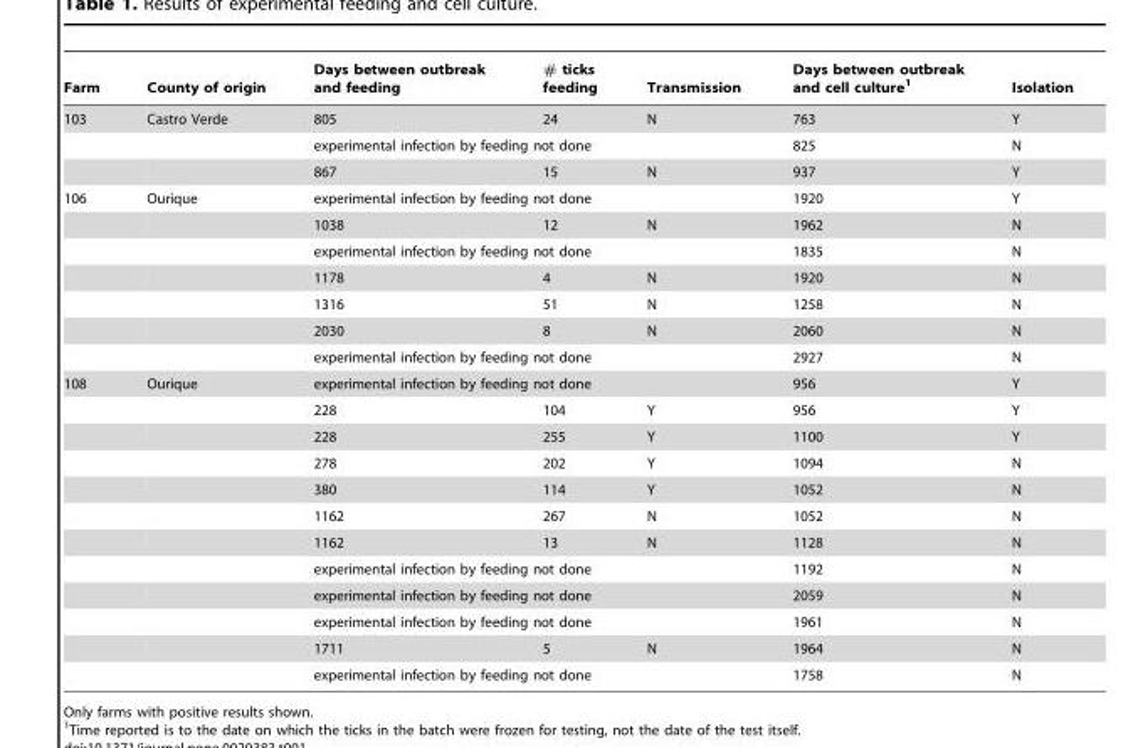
<table><thead><tr><td>Farm</td><td>County of origin</td><td>Days between outbreak and feeding</td><td># ticks feeding</td><td>Transmission</td><td>Days between outbreak and cell culture<sup>1</sup></td><td>Isolation</td></tr></thead><tbody><tr><td rowspan="3">103</td><td>Castro Verde</td><td>805</td><td>24</td><td>N</td><td>763</td><td>Y</td></tr><tr><td></td><td colspan="3">experimental infection by feeding not done</td><td>825</td><td>N</td></tr><tr><td></td><td>867</td><td>15</td><td>N</td><td>937</td><td>Y</td></tr><tr><td rowspan="7">106</td><td>Ourique</td><td colspan="3">experimental infection by feeding not done</td><td>1920</td><td>Y</td></tr><tr><td></td><td>1038</td><td>12</td><td>N</td><td>1962</td><td>N</td></tr><tr><td></td><td colspan="3">experimental infection by feeding not done</td><td>1835</td><td>N</td></tr><tr><td></td><td>1178</td><td>4</td><td>N</td><td>1920</td><td>N</td></tr><tr><td></td><td>1316</td><td>51</td><td>N</td><td>1258</td><td>N</td></tr><tr><td></td><td>2030</td><td>8</td><td>N</td><td>2060</td><td>N</td></tr><tr><td></td><td colspan="3">experimental infection by feeding not done</td><td>2927</td><td>N</td></tr><tr><td rowspan="12">108</td><td>Ourique</td><td colspan="3">experimental infection by feeding not done</td><td>956</td><td>Y</td></tr><tr><td></td><td>228</td><td>104</td><td>Y</td><td>956</td><td>Y</td></tr><tr><td></td><td>228</td><td>255</td><td>Y</td><td>1100</td><td>Y</td></tr><tr><td></td><td>278</td><td>202</td><td>Y</td><td>1094</td><td>N</td></tr><tr><td></td><td>380</td><td>114</td><td>Y</td><td>1052</td><td>N</td></tr><tr><td></td><td>1162</td><td>267</td><td>N</td><td>1052</td><td>N</td></tr><tr><td></td><td>1162</td><td>13</td><td>N</td><td>1128</td><td>N</td></tr><tr><td></td><td colspan="3">experimental infection by feeding not done</td><td>1192</td><td>N</td></tr><tr><td></td><td colspan="3">experimental infection by feeding not done</td><td>2059</td><td>N</td></tr><tr><td></td><td colspan="3">experimental infection by feeding not done</td><td>1961</td><td>N</td></tr><tr><td></td><td>1711</td><td>5</td><td>N</td><td>1964</td><td>N</td></tr><tr><td></td><td colspan="3">experimental infection by feeding not done</td><td>1758</td><td>N</td></tr></tbody></table>